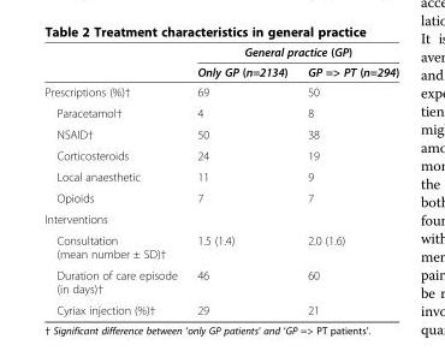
<table><thead><tr><td rowspan="2"></td><td colspan="2">General practice (GP)</td></tr><tr><td>Only GP (n=2134)</td><td>GP =&gt; PT (n=294)</td></tr></thead><tbody><tr><td>Prescriptions (%)†</td><td>69</td><td>50</td></tr><tr><td>Paracetamol†</td><td>4</td><td>8</td></tr><tr><td>NSAID†</td><td>50</td><td>38</td></tr><tr><td>Corticosteroids</td><td>24</td><td>19</td></tr><tr><td>Local anaesthetic</td><td>11</td><td>9</td></tr><tr><td>Opioids</td><td>7</td><td>7</td></tr><tr><td colspan="3">Interventions</td></tr><tr><td>Consultation (mean number ± SD)†</td><td>1.5 (1.4)</td><td>2.0 (1.6)</td></tr><tr><td>Duration of care episode (in days)†</td><td>46</td><td>60</td></tr><tr><td>Cyriax injection (%)†</td><td>29</td><td>21</td></tr></tbody></table>